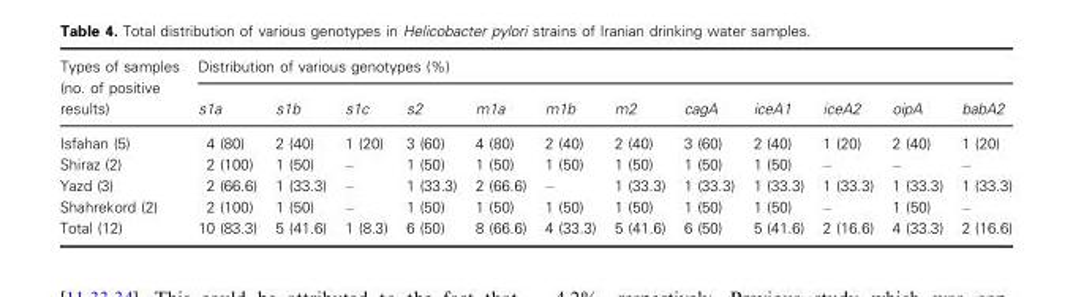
<table><thead><tr><td rowspan="2">Types of samples (no. of positive results)</td><td colspan="12">Distribution of various genotypes (%)</td></tr><tr><td>s1a</td><td>s1b</td><td>s1c</td><td>s2</td><td>m1a</td><td>m1b</td><td>m2</td><td>cagA</td><td>iceA1</td><td>iceA2</td><td>oipA</td><td>babA2</td></tr></thead><tbody><tr><td>Isfahan (5)</td><td>4 (80)</td><td>2 (40)</td><td>1 (20)</td><td>3 (60)</td><td>4 (80)</td><td>2 (40)</td><td>2 (40)</td><td>3 (60)</td><td>2 (40)</td><td>1 (20)</td><td>2 (40)</td><td>1 (20)</td></tr><tr><td>Shiraz (2)</td><td>2 (100)</td><td>1 (50)</td><td>–</td><td>1 (50)</td><td>1 (50)</td><td>1 (50)</td><td>1 (50)</td><td>1 (50)</td><td>1 (50)</td><td>–</td><td>–</td><td>–</td></tr><tr><td>Yazd (3)</td><td>2 (66.6)</td><td>1 (33.3)</td><td>–</td><td>1 (33.3)</td><td>2 (66.6)</td><td>–</td><td>1 (33.3)</td><td>1 (33.3)</td><td>1 (33.3)</td><td>1 (33.3)</td><td>1 (33.3)</td><td>1 (33.3)</td></tr><tr><td>Shahrekord (2)</td><td>2 (100)</td><td>1 (50)</td><td>–</td><td>1 (50)</td><td>1 (50)</td><td>1 (50)</td><td>1 (50)</td><td>1 (50)</td><td>1 (50)</td><td>–</td><td>1 (50)</td><td>–</td></tr><tr><td>Total (12)</td><td>10 (83.3)</td><td>5 (41.6)</td><td>1 (8.3)</td><td>6 (50)</td><td>8 (66.6)</td><td>4 (33.3)</td><td>5 (41.6)</td><td>6 (50)</td><td>5 (41.6)</td><td>2 (16.6)</td><td>4 (33.3)</td><td>2 (16.6)</td></tr></tbody></table>